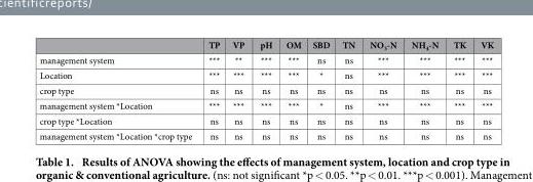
<table><thead><tr><td></td><td>TP</td><td>VP</td><td>pH</td><td>OM</td><td>SBD</td><td>TN</td><td>NO<sub>3</sub>-N</td><td>NH<sub>4</sub>-N</td><td>TK</td><td>VK</td></tr></thead><tbody><tr><td>management system</td><td>***</td><td>**</td><td>***</td><td>***</td><td>ns</td><td>ns</td><td>***</td><td>***</td><td>***</td><td>***</td></tr><tr><td>Location</td><td>***</td><td>***</td><td>***</td><td>***</td><td>*</td><td>ns</td><td>***</td><td>***</td><td>***</td><td>***</td></tr><tr><td>crop type</td><td>ns</td><td>ns</td><td>ns</td><td>ns</td><td>ns</td><td>ns</td><td>ns</td><td>ns</td><td>ns</td><td>ns</td></tr><tr><td>management system *Location</td><td>***</td><td>***</td><td>***</td><td>***</td><td>*</td><td>ns</td><td>***</td><td>***</td><td>***</td><td>***</td></tr><tr><td>crop type *Location</td><td>ns</td><td>ns</td><td>ns</td><td>ns</td><td>ns</td><td>ns</td><td>ns</td><td>ns</td><td>ns</td><td>ns</td></tr><tr><td>management system *Location *crop type</td><td>ns</td><td>ns</td><td>ns</td><td>ns</td><td>ns</td><td>ns</td><td>ns</td><td>ns</td><td>ns</td><td>ns</td></tr></tbody></table>